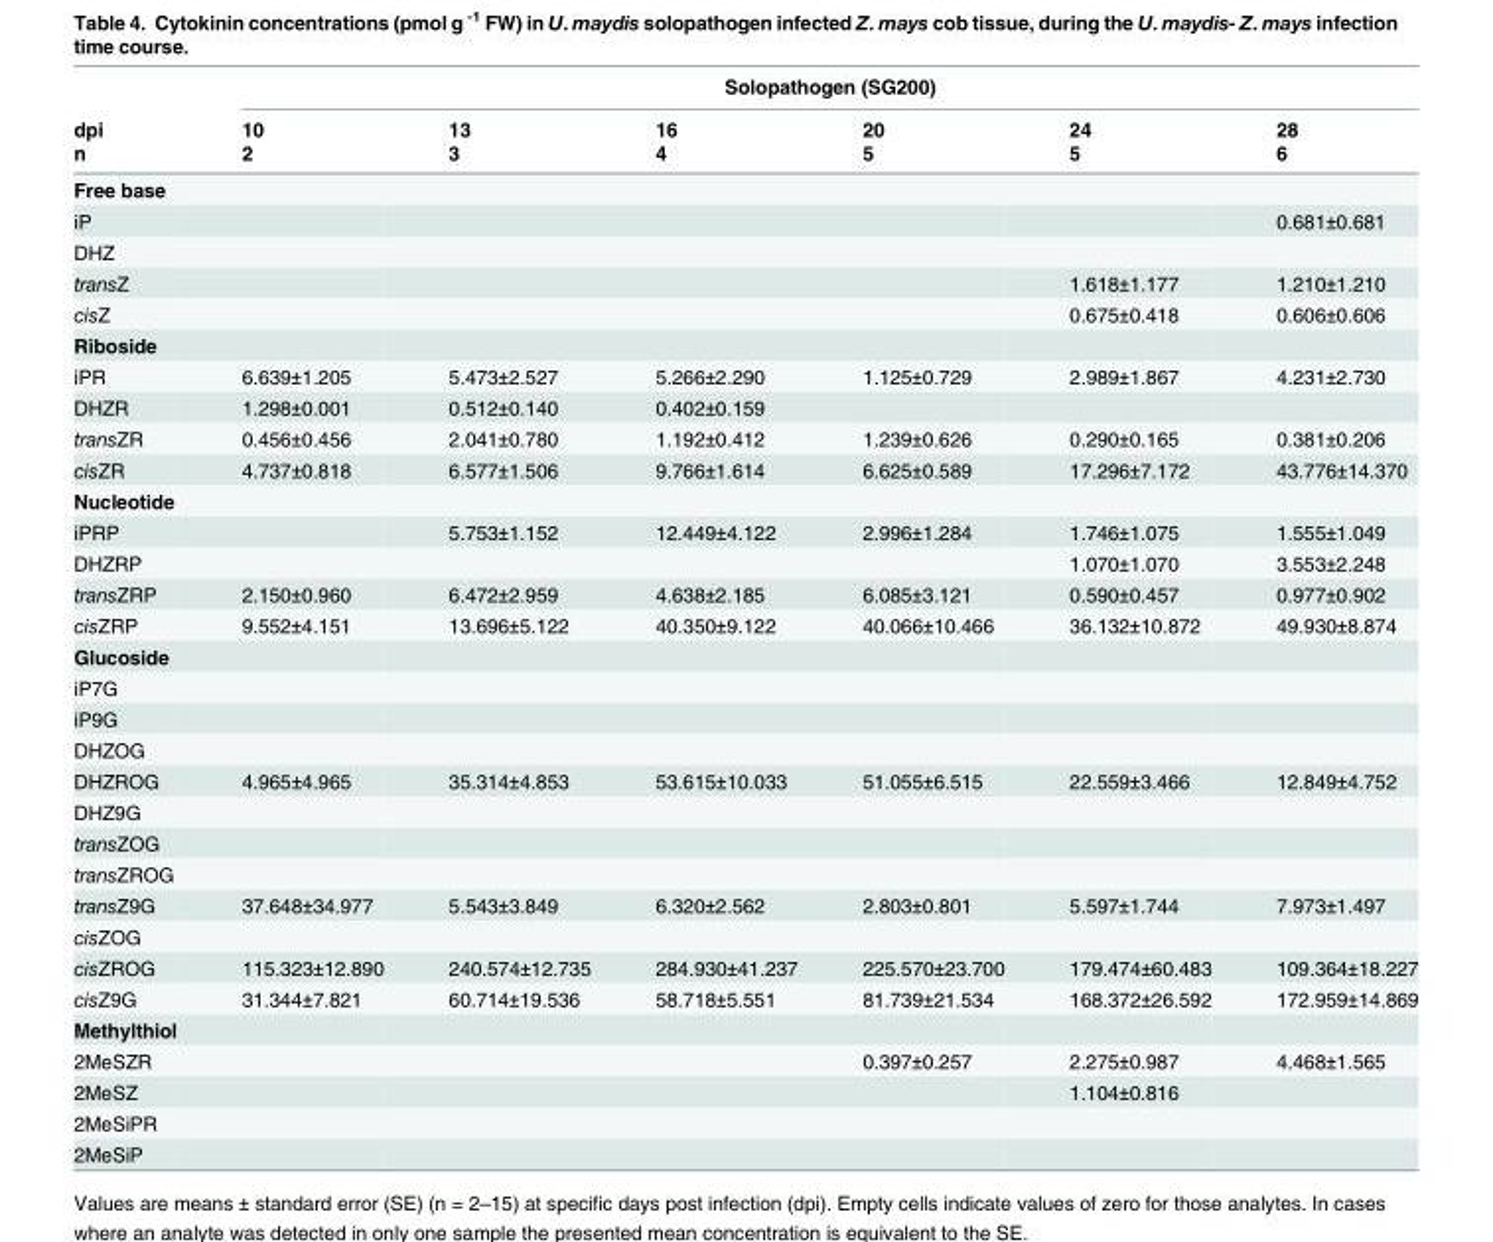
<table><thead><tr><td rowspan="3">dpi n</td><td colspan="6">Solopathogen (SG200)</td></tr><tr><td rowspan="2">10 2</td><td rowspan="2">13 3</td><td rowspan="2">16 4</td><td rowspan="2">20 5</td><td rowspan="2">24 5</td><td rowspan="2">28 6</td></tr><tr></tr></thead><tbody><tr><td colspan="7">Free base</td></tr><tr><td>iP</td><td></td><td></td><td></td><td></td><td></td><td>0.681±0.681</td></tr><tr><td colspan="7">DHZ</td></tr><tr><td>transZ</td><td></td><td></td><td></td><td></td><td>1.618±1.177</td><td>1.210±1.210</td></tr><tr><td>cisZ</td><td></td><td></td><td></td><td></td><td>0.675±0.418</td><td>0.606±0.606</td></tr><tr><td colspan="7">Riboside</td></tr><tr><td>iPR</td><td>6.639±1.205</td><td>5.473±2.527</td><td>5.266±2.290</td><td>1.125±0.729</td><td>2.989±1.867</td><td>4.231±2.730</td></tr><tr><td>DHZR</td><td>1.298±0.001</td><td>0.512±0.140</td><td>0.402±0.159</td><td></td><td></td><td></td></tr><tr><td>transZR</td><td>0.456±0.456</td><td>2.041±0.780</td><td>1.192±0.412</td><td>1.239±0.626</td><td>0.290±0.165</td><td>0.381±0.206</td></tr><tr><td>cisZR</td><td>4.737±0.818</td><td>6.577±1.506</td><td>9.766±1.614</td><td>6.625±0.589</td><td>17.296±7.172</td><td>43.776±14.370</td></tr><tr><td colspan="7">Nucleotide</td></tr><tr><td>iPRP</td><td></td><td>5.753±1.152</td><td>12.449±4.122</td><td>2.996±1.284</td><td>1.746±1.075</td><td>1.555±1.049</td></tr><tr><td>DHZRP</td><td></td><td></td><td></td><td></td><td>1.070±1.070</td><td>3.553±2.248</td></tr><tr><td>transZRP</td><td>2.150±0.960</td><td>6.472±2.959</td><td>4.638±2.185</td><td>6.085±3.121</td><td>0.590±0.457</td><td>0.977±0.902</td></tr><tr><td>cisZRP</td><td>9.552±4.151</td><td>13.696±5.122</td><td>40.350±9.122</td><td>40.066±10.466</td><td>36.132±10.872</td><td>49.930±8.874</td></tr><tr><td colspan="7">Glucoside</td></tr><tr><td colspan="7">iP7G</td></tr><tr><td colspan="7">iP9G</td></tr><tr><td colspan="7">DHZOG</td></tr><tr><td>DHZROG</td><td>4.965±4.965</td><td>35.314±4.853</td><td>53.615±10.033</td><td>51.055±6.515</td><td>22.559±3.466</td><td>12.849±4.752</td></tr><tr><td colspan="7">DHZ9G</td></tr><tr><td colspan="7">transZOG</td></tr><tr><td colspan="7">transZROG</td></tr><tr><td>transZ9G</td><td>37.648±34.977</td><td>5.543±3.849</td><td>6.320±2.562</td><td>2.803±0.801</td><td>5.597±1.744</td><td>7.973±1.497</td></tr><tr><td colspan="7">cisZOG</td></tr><tr><td>cisZROG</td><td>115.323±12.890</td><td>240.574±12.735</td><td>284.930±41.237</td><td>225.570±23.700</td><td>179.474±60.483</td><td>109.364±18.227</td></tr><tr><td>cisZ9G</td><td>31.344±7.821</td><td>60.714±19.536</td><td>58.718±5.551</td><td>81.739±21.534</td><td>168.372±26.592</td><td>172.959±14.869</td></tr><tr><td colspan="7">Methylthiol</td></tr><tr><td>2MeSZR</td><td></td><td></td><td></td><td>0.397±0.257</td><td>2.275±0.987</td><td>4.468±1.565</td></tr><tr><td>2MeSZ</td><td></td><td></td><td></td><td></td><td>1.104±0.816</td><td></td></tr><tr><td colspan="7">2MeSiPR</td></tr><tr><td>2MeSiP</td><td></td><td></td><td></td><td></td><td></td><td></td></tr></tbody></table>